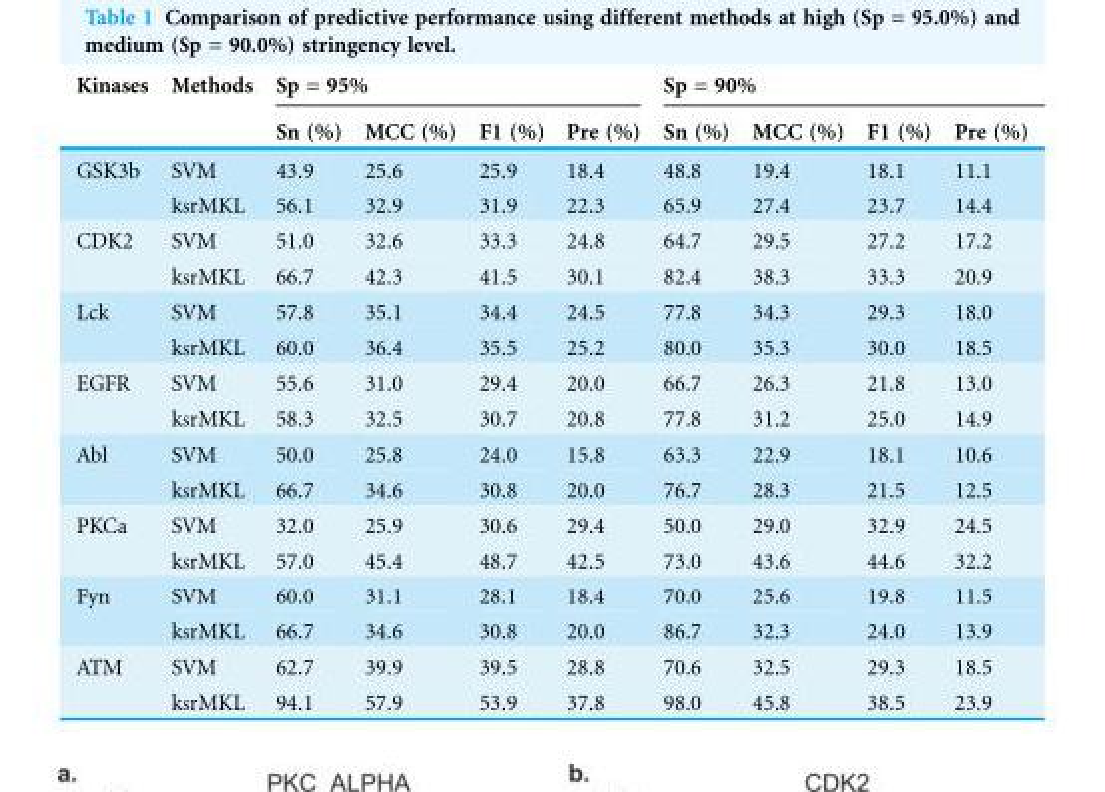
<table><thead><tr><td rowspan="2">Kinases</td><td rowspan="2">Methods</td><td colspan="4">Sp = 95%</td><td colspan="4">Sp = 90%</td></tr><tr><td>Sn (%)</td><td>MCC (%)</td><td>F1 (%)</td><td>Pre (%)</td><td>Sn (%)</td><td>MCC (%)</td><td>F1 (%)</td><td>Pre (%)</td></tr></thead><tbody><tr><td rowspan="2">GSK3b</td><td>SVM</td><td>43.9</td><td>25.6</td><td>25.9</td><td>18.4</td><td>48.8</td><td>19.4</td><td>18.1</td><td>11.1</td></tr><tr><td>ksrMKL</td><td>56.1</td><td>32.9</td><td>31.9</td><td>22.3</td><td>65.9</td><td>27.4</td><td>23.7</td><td>14.4</td></tr><tr><td rowspan="2">CDK2</td><td>SVM</td><td>51.0</td><td>32.6</td><td>33.3</td><td>24.8</td><td>64.7</td><td>29.5</td><td>27.2</td><td>17.2</td></tr><tr><td>ksrMKL</td><td>66.7</td><td>42.3</td><td>41.5</td><td>30.1</td><td>82.4</td><td>38.3</td><td>33.3</td><td>20.9</td></tr><tr><td rowspan="2">Lck</td><td>SVM</td><td>57.8</td><td>35.1</td><td>34.4</td><td>24.5</td><td>77.8</td><td>34.3</td><td>29.3</td><td>18.0</td></tr><tr><td>ksrMKL</td><td>60.0</td><td>36.4</td><td>35.5</td><td>25.2</td><td>80.0</td><td>35.3</td><td>30.0</td><td>18.5</td></tr><tr><td rowspan="2">EGFR</td><td>SVM</td><td>55.6</td><td>31.0</td><td>29.4</td><td>20.0</td><td>66.7</td><td>26.3</td><td>21.8</td><td>13.0</td></tr><tr><td>ksrMKL</td><td>58.3</td><td>32.5</td><td>30.7</td><td>20.8</td><td>77.8</td><td>31.2</td><td>25.0</td><td>14.9</td></tr><tr><td rowspan="2">Abl</td><td>SVM</td><td>50.0</td><td>25.8</td><td>24.0</td><td>15.8</td><td>63.3</td><td>22.9</td><td>18.1</td><td>10.6</td></tr><tr><td>ksrMKL</td><td>66.7</td><td>34.6</td><td>30.8</td><td>20.0</td><td>76.7</td><td>28.3</td><td>21.5</td><td>12.5</td></tr><tr><td rowspan="2">PKCa</td><td>SVM</td><td>32.0</td><td>25.9</td><td>30.6</td><td>29.4</td><td>50.0</td><td>29.0</td><td>32.9</td><td>24.5</td></tr><tr><td>ksrMKL</td><td>57.0</td><td>45.4</td><td>48.7</td><td>42.5</td><td>73.0</td><td>43.6</td><td>44.6</td><td>32.2</td></tr><tr><td rowspan="2">Fyn</td><td>SVM</td><td>60.0</td><td>31.1</td><td>28.1</td><td>18.4</td><td>70.0</td><td>25.6</td><td>19.8</td><td>11.5</td></tr><tr><td>ksrMKL</td><td>66.7</td><td>34.6</td><td>30.8</td><td>20.0</td><td>86.7</td><td>32.3</td><td>24.0</td><td>13.9</td></tr><tr><td rowspan="2">ATM</td><td>SVM</td><td>62.7</td><td>39.9</td><td>39.5</td><td>28.8</td><td>70.6</td><td>32.5</td><td>29.3</td><td>18.5</td></tr><tr><td>ksrMKL</td><td>94.1</td><td>57.9</td><td>53.9</td><td>37.8</td><td>98.0</td><td>45.8</td><td>38.5</td><td>23.9</td></tr></tbody></table>